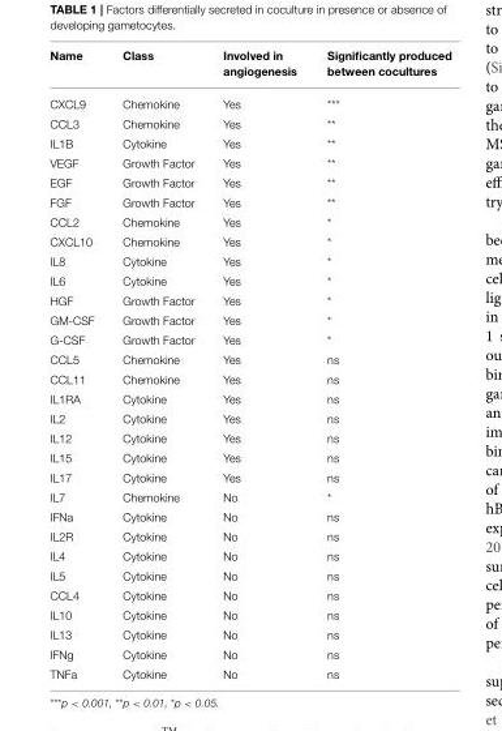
<table><thead><tr><td>Name</td><td>Class</td><td>Involved in angiogenesis</td><td>Significantly produced between cocultures</td></tr></thead><tbody><tr><td>CXCL9</td><td>Chemokine</td><td>Yes</td><td>***</td></tr><tr><td>CCL3</td><td>Chemokine</td><td>Yes</td><td>**</td></tr><tr><td>IL1B</td><td>Cytokine</td><td>Yes</td><td>**</td></tr><tr><td>VEGF</td><td>Growth Factor</td><td>Yes</td><td>**</td></tr><tr><td>EGF</td><td>Growth Factor</td><td>Yes</td><td>**</td></tr><tr><td>FGF</td><td>Growth Factor</td><td>Yes</td><td>**</td></tr><tr><td>CCL2</td><td>Chemokine</td><td>Yes</td><td>*</td></tr><tr><td>CXCL10</td><td>Chemokine</td><td>Yes</td><td>*</td></tr><tr><td>IL8</td><td>Cytokine</td><td>Yes</td><td>*</td></tr><tr><td>IL6</td><td>Cytokine</td><td>Yes</td><td>*</td></tr><tr><td>HGF</td><td>Growth Factor</td><td>Yes</td><td>*</td></tr><tr><td>GM-CSF</td><td>Growth Factor</td><td>Yes</td><td>*</td></tr><tr><td>G-CSF</td><td>Growth Factor</td><td>Yes</td><td>*</td></tr><tr><td>CCL5</td><td>Chemokine</td><td>Yes</td><td>ns</td></tr><tr><td>CCL11</td><td>Chemokine</td><td>Yes</td><td>ns</td></tr><tr><td>IL1RA</td><td>Cytokine</td><td>Yes</td><td>ns</td></tr><tr><td>IL2</td><td>Cytokine</td><td>Yes</td><td>ns</td></tr><tr><td>IL12</td><td>Cytokine</td><td>Yes</td><td>ns</td></tr><tr><td>IL15</td><td>Cytokine</td><td>Yes</td><td>ns</td></tr><tr><td>IL17</td><td>Cytokine</td><td>Yes</td><td>ns</td></tr><tr><td>IL7</td><td>Chemokine</td><td>No</td><td>*</td></tr><tr><td>IFNa</td><td>Cytokine</td><td>No</td><td>ns</td></tr><tr><td>IL2R</td><td>Cytokine</td><td>No</td><td>ns</td></tr><tr><td>IL4</td><td>Cytokine</td><td>No</td><td>ns</td></tr><tr><td>IL5</td><td>Cytokine</td><td>No</td><td>ns</td></tr><tr><td>CCL4</td><td>Cytokine</td><td>No</td><td>ns</td></tr><tr><td>IL10</td><td>Cytokine</td><td>No</td><td>ns</td></tr><tr><td>IL13</td><td>Cytokine</td><td>No</td><td>ns</td></tr><tr><td>IFNg</td><td>Cytokine</td><td>No</td><td>ns</td></tr><tr><td>TNFa</td><td>Cytokine</td><td>No</td><td>ns</td></tr></tbody></table>